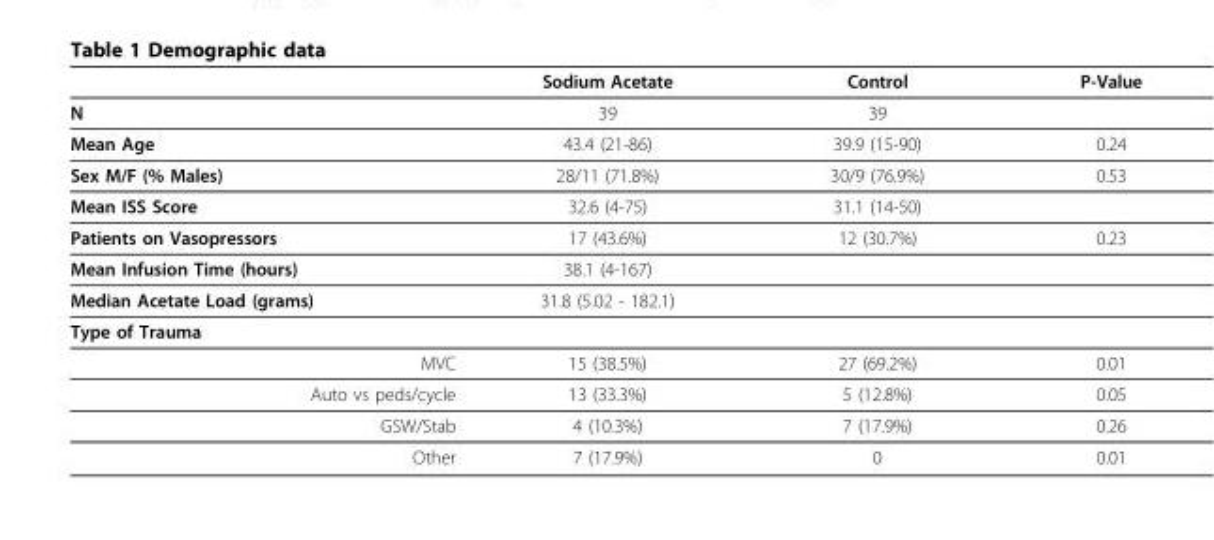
<table><thead><tr><td></td><td>Sodium Acetate</td><td>Control</td><td>P-Value</td></tr></thead><tbody><tr><td>N</td><td>39</td><td>39</td><td></td></tr><tr><td>Mean Age</td><td>43.4 (21-86)</td><td>39.9 (15-90)</td><td>0.24</td></tr><tr><td>Sex M/F (% Males)</td><td>28/11 (71.8%)</td><td>30/9 (76.9%)</td><td>0.53</td></tr><tr><td>Mean ISS Score</td><td>32.6 (4-75)</td><td>31.1 (14-50)</td><td></td></tr><tr><td>Patients on Vasopressors</td><td>17 (43.6%)</td><td>12 (30.7%)</td><td>0.23</td></tr><tr><td>Mean Infusion Time (hours)</td><td>38.1 (4-167)</td><td></td><td></td></tr><tr><td>Median Acetate Load (grams)</td><td>31.8 (5.02 - 182.1)</td><td></td><td></td></tr><tr><td colspan="4">Type of Trauma</td></tr><tr><td>MVC</td><td>15 (38.5%)</td><td>27 (69.2%)</td><td>0.01</td></tr><tr><td>Auto vs peds/cycle</td><td>13 (33.3%)</td><td>5 (12.8%)</td><td>0.05</td></tr><tr><td>GSW/Stab</td><td>4 (10.3%)</td><td>7 (17.9%)</td><td>0.26</td></tr><tr><td>Other</td><td>7 (17.9%)</td><td>0</td><td>0.01</td></tr></tbody></table>